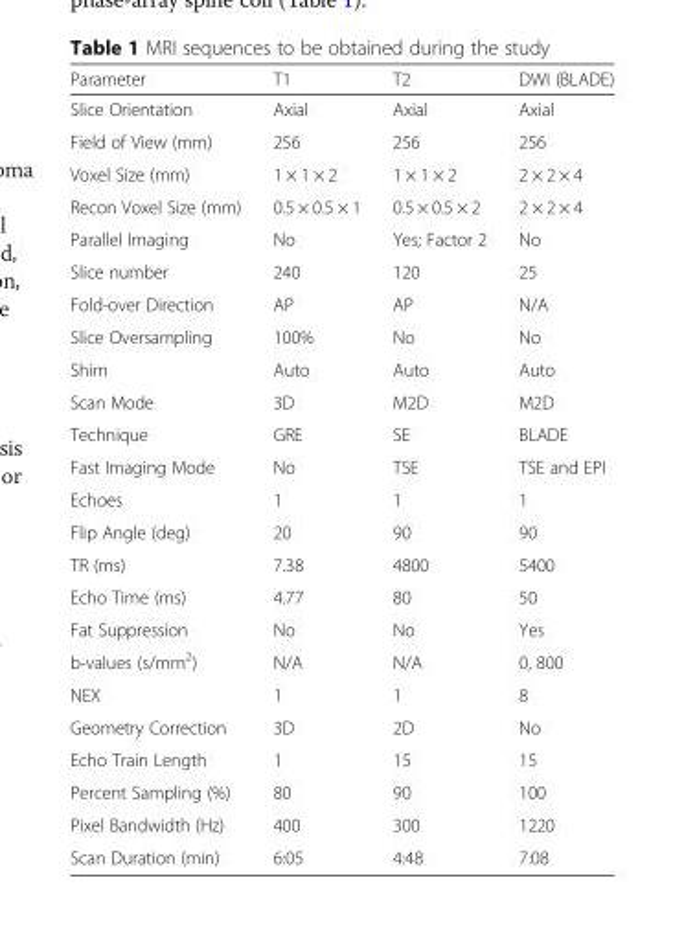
<table><thead><tr><td>Parameter</td><td>T1</td><td>T2</td><td>DWI (BLADE)</td></tr></thead><tbody><tr><td>Slice Orientation</td><td>Axial</td><td>Axial</td><td>Axial</td></tr><tr><td>Field of View (mm)</td><td>256</td><td>256</td><td>256</td></tr><tr><td>Voxel Size (mm)</td><td>1 × 1 × 2</td><td>1 × 1 × 2</td><td>2 × 2 × 4</td></tr><tr><td>Recon Voxel Size (mm)</td><td>0.5 × 0.5 × 1</td><td>0.5 × 0.5 × 2</td><td>2 × 2 × 4</td></tr><tr><td>Parallel Imaging</td><td>No</td><td>Yes; Factor 2</td><td>No</td></tr><tr><td>Slice number</td><td>240</td><td>120</td><td>25</td></tr><tr><td>Fold-over Direction</td><td>AP</td><td>AP</td><td>N/A</td></tr><tr><td>Slice Oversampling</td><td>100%</td><td>No</td><td>No</td></tr><tr><td>Shim</td><td>Auto</td><td>Auto</td><td>Auto</td></tr><tr><td>Scan Mode</td><td>3D</td><td>M2D</td><td>M2D</td></tr><tr><td>Technique</td><td>GRE</td><td>SE</td><td>BLADE</td></tr><tr><td>Fast Imaging Mode</td><td>No</td><td>TSE</td><td>TSE and EPI</td></tr><tr><td>Echoes</td><td>1</td><td>1</td><td>1</td></tr><tr><td>Flip Angle (deg)</td><td>20</td><td>90</td><td>90</td></tr><tr><td>TR (ms)</td><td>7.38</td><td>4800</td><td>5400</td></tr><tr><td>Echo Time (ms)</td><td>4.77</td><td>80</td><td>50</td></tr><tr><td>Fat Suppression</td><td>No</td><td>No</td><td>Yes</td></tr><tr><td>b-values (s/mm<sup>2</sup>)</td><td>N/A</td><td>N/A</td><td>0, 800</td></tr><tr><td>NEX</td><td>1</td><td>1</td><td>8</td></tr><tr><td>Geometry Correction</td><td>3D</td><td>2D</td><td>No</td></tr><tr><td>Echo Train Length</td><td>1</td><td>15</td><td>15</td></tr><tr><td>Percent Sampling (%)</td><td>80</td><td>90</td><td>100</td></tr><tr><td>Pixel Bandwidth (Hz)</td><td>400</td><td>300</td><td>1220</td></tr><tr><td>Scan Duration (min)</td><td>6:05</td><td>4:48</td><td>7:08</td></tr></tbody></table>